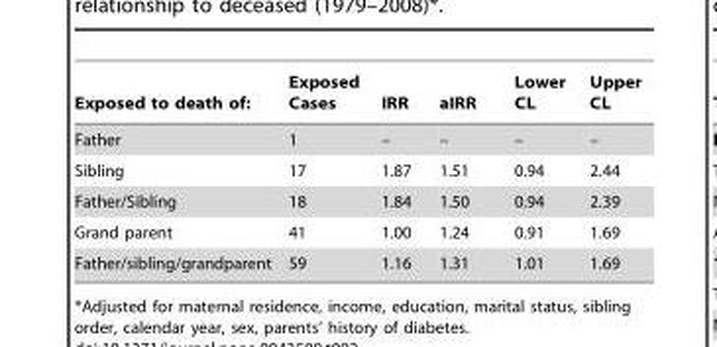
<table><thead><tr><td>Exposed to death of:</td><td>Exposed Cases</td><td>IRR</td><td>aIRR</td><td>Lower CL</td><td>Upper CL</td></tr></thead><tbody><tr><td>Father</td><td>1</td><td>–</td><td>–</td><td>–</td><td>–</td></tr><tr><td>Sibling</td><td>17</td><td>1.87</td><td>1.51</td><td>0.94</td><td>2.44</td></tr><tr><td>Father/Sibling</td><td>18</td><td>1.84</td><td>1.50</td><td>0.94</td><td>2.39</td></tr><tr><td>Grand parent</td><td>41</td><td>1.00</td><td>1.24</td><td>0.91</td><td>1.69</td></tr><tr><td>Father/sibling/grandparent</td><td>59</td><td>1.16</td><td>1.31</td><td>1.01</td><td>1.69</td></tr></tbody></table>